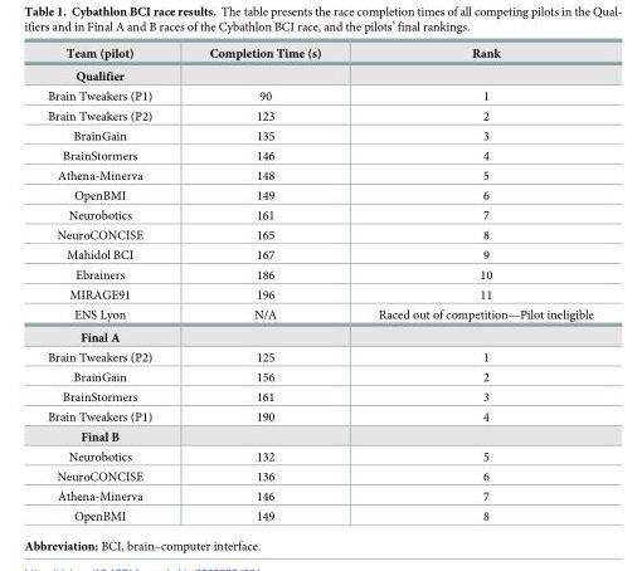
<table><thead><tr><td>Team (pilot)</td><td>Completion Time (s)</td><td>Rank</td></tr></thead><tbody><tr><td colspan="3">Qualifier</td></tr><tr><td>Brain Tweakers (P1)</td><td>90</td><td>1</td></tr><tr><td>Brain Tweakers (P2)</td><td>123</td><td>2</td></tr><tr><td>BrainGain</td><td>135</td><td>3</td></tr><tr><td>BrainStormers</td><td>146</td><td>4</td></tr><tr><td>Athena-Minerva</td><td>148</td><td>5</td></tr><tr><td>OpenBMI</td><td>149</td><td>6</td></tr><tr><td>Neurobotics</td><td>161</td><td>7</td></tr><tr><td>NeuroCONCISE</td><td>165</td><td>8</td></tr><tr><td>Mahidol BCI</td><td>167</td><td>9</td></tr><tr><td>Ebrainers</td><td>186</td><td>10</td></tr><tr><td>MIRAGE91</td><td>196</td><td>11</td></tr><tr><td>ENS Lyon</td><td>N/A</td><td>Raced out of competition—Pilot ineligible</td></tr><tr><td colspan="3">Final A</td></tr><tr><td>Brain Tweakers (P2)</td><td>125</td><td>1</td></tr><tr><td>BrainGain</td><td>156</td><td>2</td></tr><tr><td>BrainStormers</td><td>161</td><td>3</td></tr><tr><td>Brain Tweakers (P1)</td><td>190</td><td>4</td></tr><tr><td colspan="3">Final B</td></tr><tr><td>Neurobotics</td><td>132</td><td>5</td></tr><tr><td>NeuroCONCISE</td><td>136</td><td>6</td></tr><tr><td>Athena-Minerva</td><td>146</td><td>7</td></tr><tr><td>OpenBMI</td><td>149</td><td>8</td></tr></tbody></table>